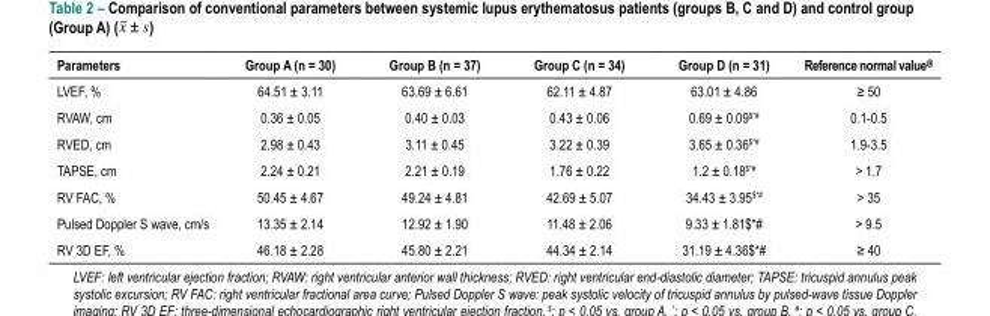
<table><thead><tr><td>Parameters</td><td>Group A (n = 30)</td><td>Group B (n = 37)</td><td>Group C (n = 34)</td><td>Group D (n = 31)</td><td>Reference normal value<sup>@</sup></td></tr></thead><tbody><tr><td>LVEF, %</td><td>64.51 ± 3.11</td><td>63.69 ± 6.61</td><td>62.11 ± 4.87</td><td>63.01 ± 4.86</td><td>≥ 50</td></tr><tr><td>RVAW, cm</td><td>0.36 ± 0.05</td><td>0.40 ± 0.03</td><td>0.43 ± 0.06</td><td>0.69 ± 0.09<sup>$*#</sup></td><td>0.1-0.5</td></tr><tr><td>RVED, cm</td><td>2.98 ± 0.43</td><td>3.11 ± 0.45</td><td>3.22 ± 0.39</td><td>3.65 ± 0.36<sup>$*#</sup></td><td>1.9-3.5</td></tr><tr><td>TAPSE, cm</td><td>2.24 ± 0.21</td><td>2.21 ± 0.19</td><td>1.76 ± 0.22</td><td>1.2 ± 0.18<sup>$*#</sup></td><td>&gt; 1.7</td></tr><tr><td>RV FAC, %</td><td>50.45 ± 4.67</td><td>49.24 ± 4.81</td><td>42.69 ± 5.07</td><td>34.43 ± 3.95<sup>$*#</sup></td><td>&gt; 35</td></tr><tr><td>Pulsed Doppler S wave, cm/s</td><td>13.35 ± 2.14</td><td>12.92 ± 1.90</td><td>11.48 ± 2.06</td><td>9.33 ± 1.81$*#</td><td>&gt; 9.5</td></tr><tr><td>RV 3D EF, %</td><td>46.18 ± 2.28</td><td>45.80 ± 2.21</td><td>44.34 ± 2.14</td><td>31.19 ± 4.36$*#</td><td>≥ 40</td></tr></tbody></table>